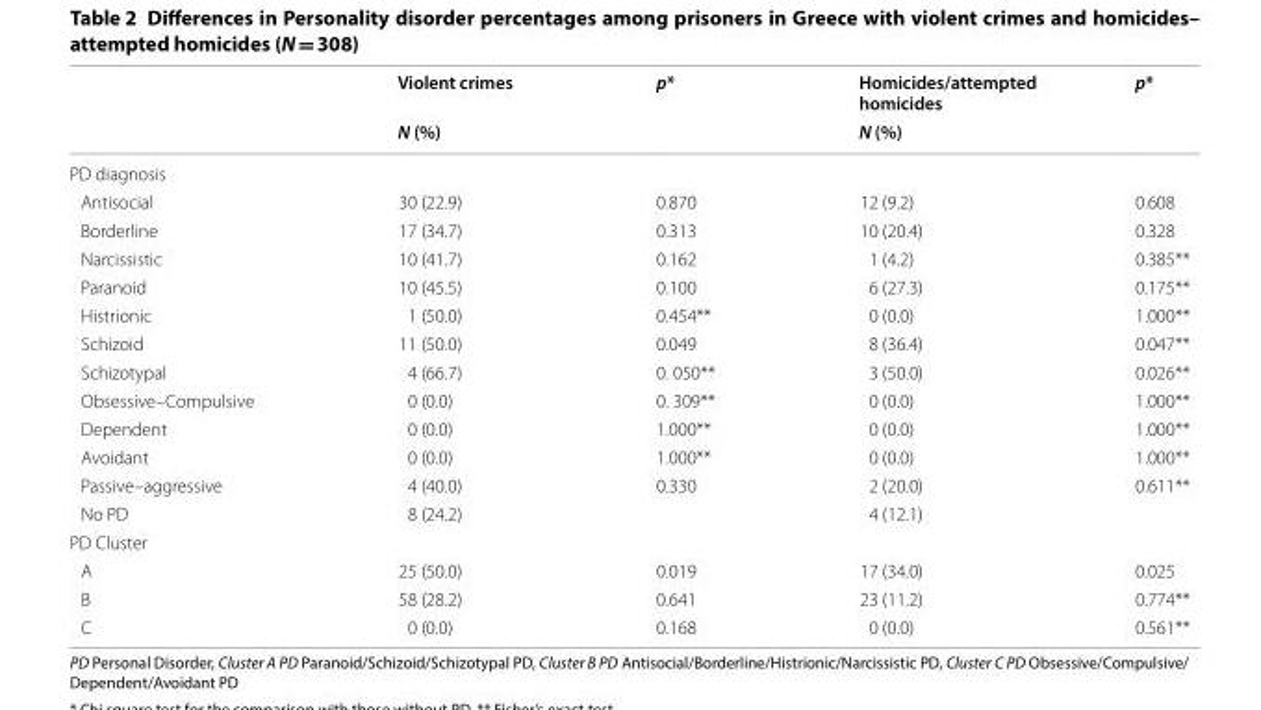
<table><thead><tr><td rowspan="2"></td><td rowspan="2">Violent crimes N (%)</td><td rowspan="2">p*</td><td rowspan="2">Homicides/attempted homicides N (%)</td><td rowspan="2">p*</td></tr><tr></tr></thead><tbody><tr><td colspan="5">PD diagnosis</td></tr><tr><td>Antisocial</td><td>30 (22.9)</td><td>0.870</td><td>12 (9.2)</td><td>0.608</td></tr><tr><td>Borderline</td><td>17 (34.7)</td><td>0.313</td><td>10 (20.4)</td><td>0.328</td></tr><tr><td>Narcissistic</td><td>10 (41.7)</td><td>0.162</td><td>1 (4.2)</td><td>0.385**</td></tr><tr><td>Paranoid</td><td>10 (45.5)</td><td>0.100</td><td>6 (27.3)</td><td>0.175**</td></tr><tr><td>Histrionic</td><td>1 (50.0)</td><td>0.454**</td><td>0 (0.0)</td><td>1.000**</td></tr><tr><td>Schizoid</td><td>11 (50.0)</td><td>0.049</td><td>8 (36.4)</td><td>0.047**</td></tr><tr><td>Schizotypal</td><td>4 (66.7)</td><td>0. 050**</td><td>3 (50.0)</td><td>0.026**</td></tr><tr><td>Obsessive–Compulsive</td><td>0 (0.0)</td><td>0. 309**</td><td>0 (0.0)</td><td>1.000**</td></tr><tr><td>Dependent</td><td>0 (0.0)</td><td>1.000**</td><td>0 (0.0)</td><td>1.000**</td></tr><tr><td>Avoidant</td><td>0 (0.0)</td><td>1.000**</td><td>0 (0.0)</td><td>1.000**</td></tr><tr><td>Passive–aggressive</td><td>4 (40.0)</td><td>0.330</td><td>2 (20.0)</td><td>0.611**</td></tr><tr><td>No PD</td><td>8 (24.2)</td><td></td><td>4 (12.1)</td><td></td></tr><tr><td colspan="5">PD Cluster</td></tr><tr><td>A</td><td>25 (50.0)</td><td>0.019</td><td>17 (34.0)</td><td>0.025</td></tr><tr><td>B</td><td>58 (28.2)</td><td>0.641</td><td>23 (11.2)</td><td>0.774**</td></tr><tr><td>C</td><td>0 (0.0)</td><td>0.168</td><td>0 (0.0)</td><td>0.561**</td></tr></tbody></table>